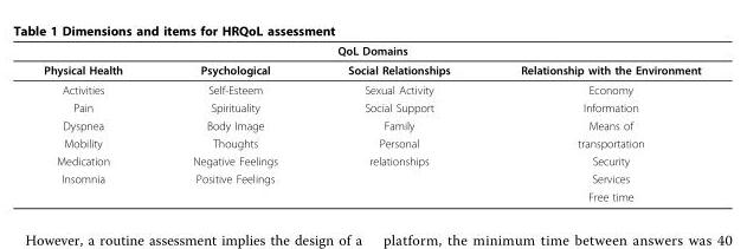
<table><thead><tr><td colspan="4">QoL Domains</td></tr><tr><td>Physical Health</td><td>Psychological</td><td>Social Relationships</td><td>Relationship with the Environment</td></tr></thead><tbody><tr><td>Activities</td><td>Self-Esteem</td><td>Sexual Activity</td><td>Economy</td></tr><tr><td>Pain</td><td>Spirituality</td><td>Social Support</td><td>Information</td></tr><tr><td>Dyspnea</td><td>Body Image</td><td>Family</td><td>Means of</td></tr><tr><td>Mobility</td><td>Thoughts</td><td>Personal</td><td>transportation</td></tr><tr><td>Medication</td><td>Negative Feelings</td><td>relationships</td><td>Security</td></tr><tr><td rowspan="2">Insomnia</td><td>Positive Feelings</td><td></td><td>Services</td></tr><tr><td></td><td></td><td>Free time</td></tr></tbody></table>